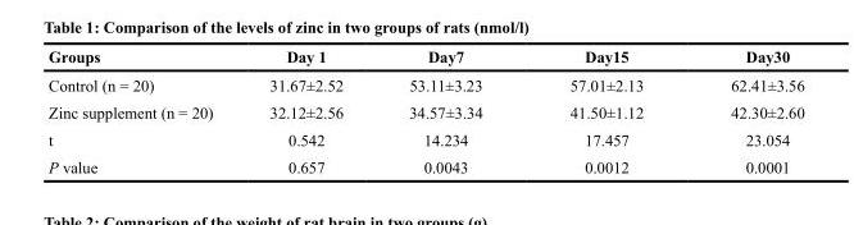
<table><thead><tr><td>Groups</td><td>Day 1</td><td>Day7</td><td>Day15</td><td>Day30</td></tr></thead><tbody><tr><td>Control (n = 20)</td><td>31.67±2.52</td><td>53.11±3.23</td><td>57.01±2.13</td><td>62.41±3.56</td></tr><tr><td>Zinc supplement (n = 20)</td><td>32.12±2.56</td><td>34.57±3.34</td><td>41.50±1.12</td><td>42.30±2.60</td></tr><tr><td>t</td><td>0.542</td><td>14.234</td><td>17.457</td><td>23.054</td></tr><tr><td>P value</td><td>0.657</td><td>0.0043</td><td>0.0012</td><td>0.0001</td></tr></tbody></table>